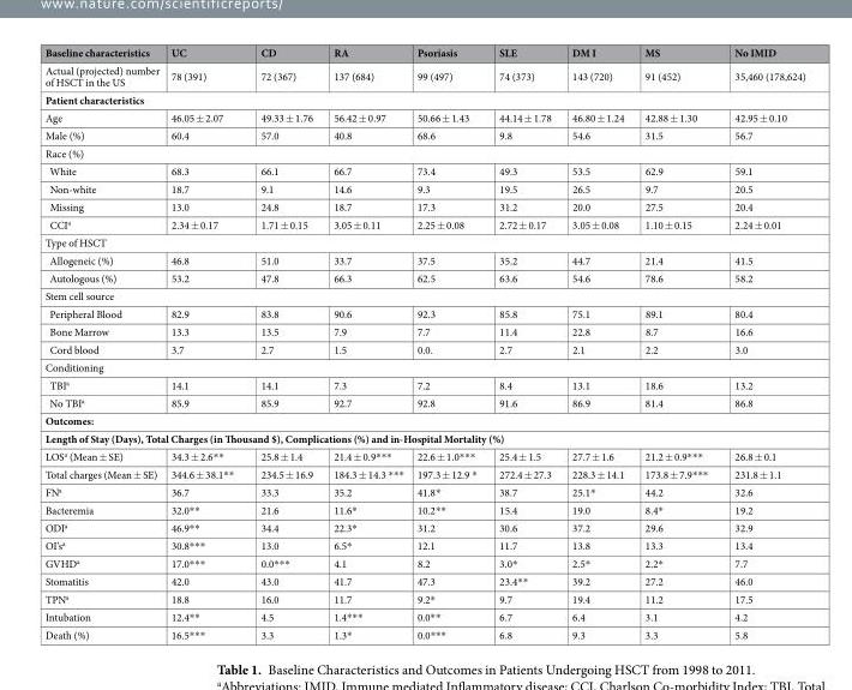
<table><thead><tr><td>Baseline characteristics</td><td>UC</td><td>CD</td><td>RA</td><td>Psoriasis</td><td>SLE</td><td>DM I</td><td>MS</td><td>No IMID</td></tr></thead><tbody><tr><td>Actual (projected) number of HSCT in the US</td><td>78 (391)</td><td>72 (367)</td><td>137 (684)</td><td>99 (497)</td><td>74 (373)</td><td>143 (720)</td><td>91 (452)</td><td>35,460 (178,624)</td></tr><tr><td colspan="9">Patient characteristics</td></tr><tr><td>Age</td><td>46.05 ± 2.07</td><td>49.33 ± 1.76</td><td>56.42 ± 0.97</td><td>50.66 ± 1.43</td><td>44.14 ± 1.78</td><td>46.80 ± 1.24</td><td>42.88 ± 1.30</td><td>42.95 ± 0.10</td></tr><tr><td>Male (%)</td><td>60.4</td><td>57.0</td><td>40.8</td><td>68.6</td><td>9.8</td><td>54.6</td><td>31.5</td><td>56.7</td></tr><tr><td colspan="9">Race (%)</td></tr><tr><td>White</td><td>68.3</td><td>66.1</td><td>66.7</td><td>73.4</td><td>49.3</td><td>53.5</td><td>62.9</td><td>59.1</td></tr><tr><td>Non-white</td><td>18.7</td><td>9.1</td><td>14.6</td><td>9.3</td><td>19.5</td><td>26.5</td><td>9.7</td><td>20.5</td></tr><tr><td>Missing</td><td>13.0</td><td>24.8</td><td>18.7</td><td>17.3</td><td>31.2</td><td>20.0</td><td>27.5</td><td>20.4</td></tr><tr><td>CCI<sup>a</sup></td><td>2.34 ± 0.17</td><td>1.71 ± 0.15</td><td>3.05 ± 0.11</td><td>2.25 ± 0.08</td><td>2.72 ± 0.17</td><td>3.05 ± 0.08</td><td>1.10 ± 0.15</td><td>2.24 ± 0.01</td></tr><tr><td colspan="9">Type of HSCT</td></tr><tr><td>Allogeneic (%)</td><td>46.8</td><td>51.0</td><td>33.7</td><td>37.5</td><td>35.2</td><td>44.7</td><td>21.4</td><td>41.5</td></tr><tr><td>Autologous (%)</td><td>53.2</td><td>47.8</td><td>66.3</td><td>62.5</td><td>63.6</td><td>54.6</td><td>78.6</td><td>58.2</td></tr><tr><td colspan="9">Stem cell source</td></tr><tr><td>Peripheral Blood</td><td>82.9</td><td>83.8</td><td>90.6</td><td>92.3</td><td>85.8</td><td>75.1</td><td>89.1</td><td>80.4</td></tr><tr><td>Bone Marrow</td><td>13.3</td><td>13.5</td><td>7.9</td><td>7.7</td><td>11.4</td><td>22.8</td><td>8.7</td><td>16.6</td></tr><tr><td>Cord blood</td><td>3.7</td><td>2.7</td><td>1.5</td><td>0.0.</td><td>2.7</td><td>2.1</td><td>2.2</td><td>3.0</td></tr><tr><td colspan="9">Conditioning</td></tr><tr><td>TBI<sup>a</sup></td><td>14.1</td><td>14.1</td><td>7.3</td><td>7.2</td><td>8.4</td><td>13.1</td><td>18.6</td><td>13.2</td></tr><tr><td>No TBI<sup>a</sup></td><td>85.9</td><td>85.9</td><td>92.7</td><td>92.8</td><td>91.6</td><td>86.9</td><td>81.4</td><td>86.8</td></tr><tr><td colspan="9">Outcomes:</td></tr><tr><td colspan="9">Length of Stay (Days), Total Charges (in Thousand $), Complications (%) and in-Hospital Mortality (%)</td></tr><tr><td>LOS<sup>a</sup> (Mean ± SE)</td><td>34.3 ± 2.6**</td><td>25.8 ± 1.4</td><td>21.4 ± 0.9***</td><td>22.6 ± 1.0***</td><td>25.4 ± 1.5</td><td>27.7 ± 1.6</td><td>21.2 ± 0.9***</td><td>26.8 ± 0.1</td></tr><tr><td>Total charges (Mean ± SE)</td><td>344.6 ± 38.1**</td><td>234.5 ± 16.9</td><td>184.3 ± 14.3 ***</td><td>197.3 ± 12.9 *</td><td>272.4 ± 27.3</td><td>228.3 ± 14.1</td><td>173.8 ± 7.9***</td><td>231.8 ± 1.1</td></tr><tr><td>FN<sup>a</sup></td><td>36.7</td><td>33.3</td><td>35.2</td><td>41.8*</td><td>38.7</td><td>25.1*</td><td>44.2</td><td>32.6</td></tr><tr><td>Bacteremia</td><td>32.0**</td><td>21.6</td><td>11.6*</td><td>10.2**</td><td>15.4</td><td>19.0</td><td>8.4*</td><td>19.2</td></tr><tr><td>ODI<sup>a</sup></td><td>46.9**</td><td>34.4</td><td>22.3*</td><td>31.2</td><td>30.6</td><td>37.2</td><td>29.6</td><td>32.9</td></tr><tr><td>OI’s<sup>a</sup></td><td>30.8***</td><td>13.0</td><td>6.5*</td><td>12.1</td><td>11.7</td><td>13.8</td><td>13.3</td><td>13.4</td></tr><tr><td>GVHD<sup>a</sup></td><td>17.0***</td><td>0.0***</td><td>4.1</td><td>8.2</td><td>3.0*</td><td>2.5*</td><td>2.2*</td><td>7.7</td></tr><tr><td>Stomatitis</td><td>42.0</td><td>43.0</td><td>41.7</td><td>47.3</td><td>23.4**</td><td>39.2</td><td>27.2</td><td>46.0</td></tr><tr><td>TPN<sup>a</sup></td><td>18.8</td><td>16.0</td><td>11.7</td><td>9.2*</td><td>9.7</td><td>19.4</td><td>11.2</td><td>17.5</td></tr><tr><td>Intubation</td><td>12.4**</td><td>4.5</td><td>1.4***</td><td>0.0**</td><td>6.7</td><td>6.4</td><td>3.1</td><td>4.2</td></tr><tr><td>Death (%)</td><td>16.5***</td><td>3.3</td><td>1.3*</td><td>0.0***</td><td>6.8</td><td>9.3</td><td>3.3</td><td>5.8</td></tr></tbody></table>